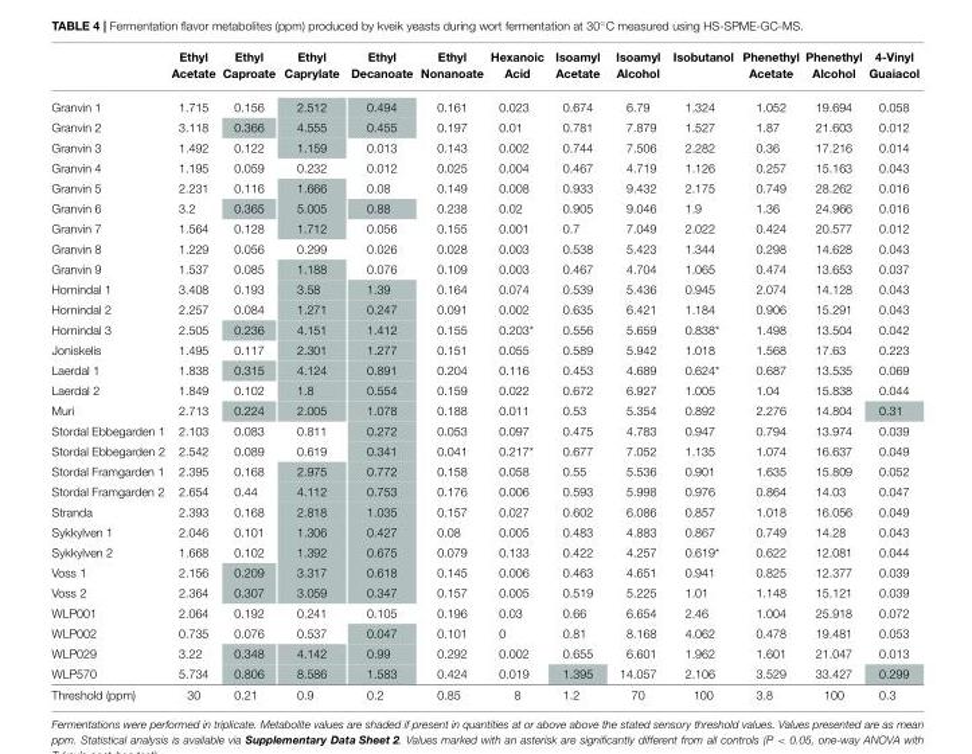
<table><thead><tr><td></td><td>Ethyl Acetate</td><td>Ethyl Caproate</td><td>Ethyl Caprylate</td><td>Ethyl Decanoate</td><td>Ethyl Nonanoate</td><td>Hexanoic Acid</td><td>Isoamyl Acetate</td><td>Isoamyl Alcohol</td><td>Isobutanol</td><td>Phenethyl Acetate</td><td>Phenethyl Alcohol</td><td>4-Vinyl Guaiacol</td></tr></thead><tbody><tr><td>Granvin 1</td><td>1.715</td><td>0.156</td><td>2.512</td><td>0.494</td><td>0.161</td><td>0.023</td><td>0.674</td><td>6.79</td><td>1.324</td><td>1.052</td><td>19.694</td><td>0.058</td></tr><tr><td>Granvin 2</td><td>3.118</td><td>0.366</td><td>4.555</td><td>0.455</td><td>0.197</td><td>0.01</td><td>0.781</td><td>7.879</td><td>1.527</td><td>1.87</td><td>21.603</td><td>0.012</td></tr><tr><td>Granvin 3</td><td>1.492</td><td>0.122</td><td>1.159</td><td>0.013</td><td>0.143</td><td>0.002</td><td>0.744</td><td>7.506</td><td>2.282</td><td>0.36</td><td>17.216</td><td>0.014</td></tr><tr><td>Granvin 4</td><td>1.195</td><td>0.059</td><td>0.232</td><td>0.012</td><td>0.025</td><td>0.004</td><td>0.467</td><td>4.719</td><td>1.126</td><td>0.257</td><td>15.163</td><td>0.043</td></tr><tr><td>Granvin 5</td><td>2.231</td><td>0.116</td><td>1.666</td><td>0.08</td><td>0.149</td><td>0.008</td><td>0.933</td><td>9.432</td><td>2.175</td><td>0.749</td><td>28.262</td><td>0.016</td></tr><tr><td>Granvin 6</td><td>3.2</td><td>0.365</td><td>5.005</td><td>0.88</td><td>0.238</td><td>0.02</td><td>0.905</td><td>9.046</td><td>1.9</td><td>1.36</td><td>24.966</td><td>0.016</td></tr><tr><td>Granvin 7</td><td>1.564</td><td>0.128</td><td>1.712</td><td>0.056</td><td>0.155</td><td>0.001</td><td>0.7</td><td>7.049</td><td>2.022</td><td>0.424</td><td>20.577</td><td>0.012</td></tr><tr><td>Granvin 8</td><td>1.229</td><td>0.056</td><td>0.299</td><td>0.026</td><td>0.028</td><td>0.003</td><td>0.538</td><td>5.423</td><td>1.344</td><td>0.298</td><td>14.628</td><td>0.043</td></tr><tr><td>Granvin 9</td><td>1.537</td><td>0.085</td><td>1.188</td><td>0.076</td><td>0.109</td><td>0.003</td><td>0.467</td><td>4.704</td><td>1.065</td><td>0.474</td><td>13.653</td><td>0.037</td></tr><tr><td>Hornindal 1</td><td>3.408</td><td>0.193</td><td>3.58</td><td>1.39</td><td>0.164</td><td>0.074</td><td>0.539</td><td>5.436</td><td>0.945</td><td>2.074</td><td>14.128</td><td>0.043</td></tr><tr><td>Hornindal 2</td><td>2.257</td><td>0.084</td><td>1.271</td><td>0.247</td><td>0.091</td><td>0.002</td><td>0.635</td><td>6.421</td><td>1.184</td><td>0.906</td><td>15.291</td><td>0.043</td></tr><tr><td>Hornindal 3</td><td>2.505</td><td>0.236</td><td>4.151</td><td>1.412</td><td>0.155</td><td>0.203*</td><td>0.556</td><td>5.659</td><td>0.838*</td><td>1.498</td><td>13.504</td><td>0.042</td></tr><tr><td>Joniskelis</td><td>1.495</td><td>0.117</td><td>2.301</td><td>1.277</td><td>0.151</td><td>0.055</td><td>0.589</td><td>5.942</td><td>1.018</td><td>1.568</td><td>17.63</td><td>0.223</td></tr><tr><td>Laerdal 1</td><td>1.838</td><td>0.315</td><td>4.124</td><td>0.891</td><td>0.204</td><td>0.116</td><td>0.453</td><td>4.689</td><td>0.624*</td><td>0.687</td><td>13.535</td><td>0.069</td></tr><tr><td>Laerdal 2</td><td>1.849</td><td>0.102</td><td>1.8</td><td>0.554</td><td>0.159</td><td>0.022</td><td>0.672</td><td>6.927</td><td>1.005</td><td>1.04</td><td>15.838</td><td>0.044</td></tr><tr><td>Muri</td><td>2.713</td><td>0.224</td><td>2.005</td><td>1.078</td><td>0.188</td><td>0.011</td><td>0.53</td><td>5.354</td><td>0.892</td><td>2.276</td><td>14.804</td><td>0.31</td></tr><tr><td>Stordal Ebbegarden 1</td><td>2.103</td><td>0.083</td><td>0.811</td><td>0.272</td><td>0.053</td><td>0.097</td><td>0.475</td><td>4.783</td><td>0.947</td><td>0.794</td><td>13.974</td><td>0.039</td></tr><tr><td>Stordal Ebbegarden 2</td><td>2.542</td><td>0.089</td><td>0.619</td><td>0.341</td><td>0.041</td><td>0.217*</td><td>0.677</td><td>7.052</td><td>1.135</td><td>1.074</td><td>16.637</td><td>0.049</td></tr><tr><td>Stordal Framgarden 1</td><td>2.395</td><td>0.168</td><td>2.975</td><td>0.772</td><td>0.158</td><td>0.058</td><td>0.55</td><td>5.536</td><td>0.901</td><td>1.635</td><td>15.809</td><td>0.052</td></tr><tr><td>Stordal Framgarden 2</td><td>2.654</td><td>0.44</td><td>4.112</td><td>0.753</td><td>0.176</td><td>0.006</td><td>0.593</td><td>5.998</td><td>0.976</td><td>0.864</td><td>14.03</td><td>0.047</td></tr><tr><td>Stranda</td><td>2.393</td><td>0.168</td><td>2.818</td><td>1.035</td><td>0.157</td><td>0.027</td><td>0.602</td><td>6.086</td><td>0.857</td><td>1.018</td><td>16.056</td><td>0.049</td></tr><tr><td>Sykkylven 1</td><td>2.046</td><td>0.101</td><td>1.306</td><td>0.427</td><td>0.08</td><td>0.005</td><td>0.483</td><td>4.883</td><td>0.867</td><td>0.749</td><td>14.28</td><td>0.043</td></tr><tr><td>Sykkylven 2</td><td>1.668</td><td>0.102</td><td>1.392</td><td>0.675</td><td>0.079</td><td>0.133</td><td>0.422</td><td>4.257</td><td>0.619*</td><td>0.622</td><td>12.081</td><td>0.044</td></tr><tr><td>Voss 1</td><td>2.156</td><td>0.209</td><td>3.317</td><td>0.618</td><td>0.145</td><td>0.006</td><td>0.463</td><td>4.651</td><td>0.941</td><td>0.825</td><td>12.377</td><td>0.039</td></tr><tr><td>Voss 2</td><td>2.364</td><td>0.307</td><td>3.059</td><td>0.347</td><td>0.157</td><td>0.005</td><td>0.519</td><td>5.225</td><td>1.01</td><td>1.148</td><td>15.121</td><td>0.039</td></tr><tr><td>WLP001</td><td>2.064</td><td>0.192</td><td>0.241</td><td>0.105</td><td>0.196</td><td>0.03</td><td>0.66</td><td>6.654</td><td>2.46</td><td>1.004</td><td>25.918</td><td>0.072</td></tr><tr><td>WLP002</td><td>0.735</td><td>0.076</td><td>0.537</td><td>0.047</td><td>0.101</td><td>0</td><td>0.81</td><td>8.168</td><td>4.062</td><td>0.478</td><td>19.481</td><td>0.053</td></tr><tr><td>WLP029</td><td>3.22</td><td>0.348</td><td>4.142</td><td>0.99</td><td>0.292</td><td>0.002</td><td>0.655</td><td>6.601</td><td>1.962</td><td>1.601</td><td>21.047</td><td>0.013</td></tr><tr><td>WLP570</td><td>5.734</td><td>0.806</td><td>8.586</td><td>1.583</td><td>0.424</td><td>0.019</td><td>1.395</td><td>14.057</td><td>2.106</td><td>3.529</td><td>33.427</td><td>0.299</td></tr><tr><td>Threshold (ppm)</td><td>30</td><td>0.21</td><td>0.9</td><td>0.2</td><td>0.85</td><td>8</td><td>1.2</td><td>70</td><td>100</td><td>3.8</td><td>100</td><td>0.3</td></tr></tbody></table>